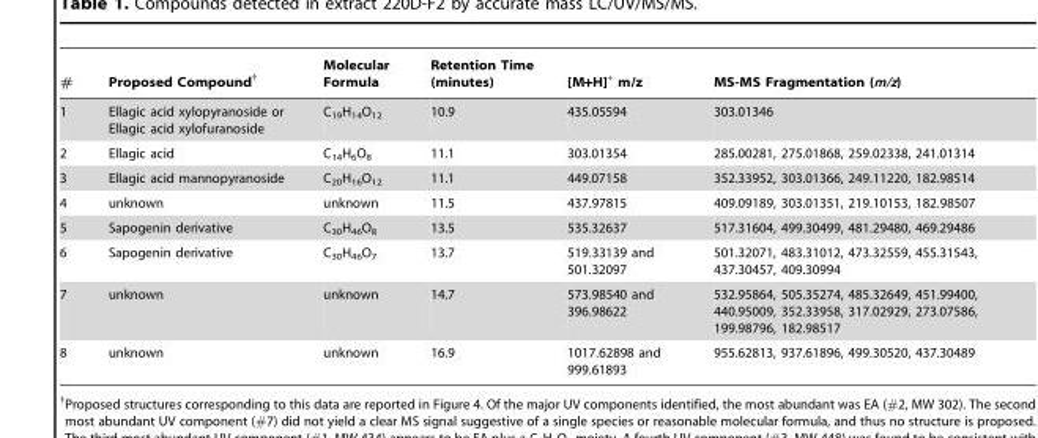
<table><thead><tr><td>#</td><td>Proposed Compound†</td><td>Molecular Formula</td><td>Retention Time (minutes)</td><td>[M+H]<sup>+</sup> m/z</td><td>MS-MS Fragmentation (m/z)</td></tr></thead><tbody><tr><td>1</td><td>Ellagic acid xylopyranoside or Ellagic acid xylofuranoside</td><td>C<sub>19</sub>H<sub>14</sub>O<sub>12</sub></td><td>10.9</td><td>435.05594</td><td>303.01346</td></tr><tr><td>2</td><td>Ellagic acid</td><td>C<sub>14</sub>H<sub>6</sub>O<sub>8</sub></td><td>11.1</td><td>303.01354</td><td>285.00281, 275.01868, 259.02338, 241.01314</td></tr><tr><td>3</td><td>Ellagic acid mannopyranoside</td><td>C<sub>20</sub>H<sub>16</sub>O<sub>12</sub></td><td>11.1</td><td>449.07158</td><td>352.33952, 303.01366, 249.11220, 182.98514</td></tr><tr><td>4</td><td>unknown</td><td>unknown</td><td>11.5</td><td>437.97815</td><td>409.09189, 303.01351, 219.10153, 182.98507</td></tr><tr><td>5</td><td>Sapogenin derivative</td><td>C<sub>30</sub>H<sub>46</sub>O<sub>8</sub></td><td>13.5</td><td>535.32637</td><td>517.31604, 499.30499, 481.29480, 469.29486</td></tr><tr><td>6</td><td>Sapogenin derivative</td><td>C<sub>30</sub>H<sub>46</sub>O<sub>7</sub></td><td>13.7</td><td>519.33139 and 501.32097</td><td>501.32071, 483.31012, 473.32559, 455.31543, 437.30457, 409.30994</td></tr><tr><td>7</td><td>unknown</td><td>unknown</td><td>14.7</td><td>573.98540 and 396.98622</td><td>532.95864, 505.35274, 485.32649, 451.99400, 440.95009, 352.33958, 317.02929, 273.07586, 199.98796, 182.98517</td></tr><tr><td>8</td><td>unknown</td><td>unknown</td><td>16.9</td><td>1017.62898 and 999.61893</td><td>955.62813, 937.61896, 499.30520, 437.30489</td></tr></tbody></table>